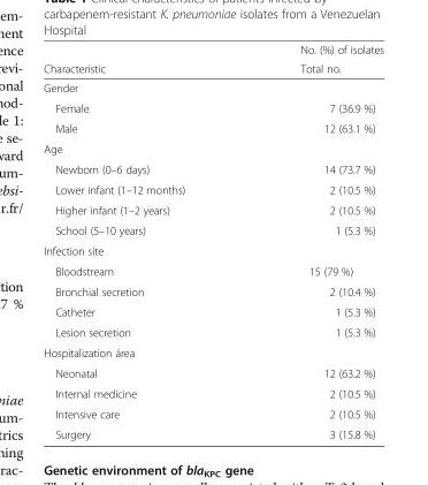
<table><thead><tr><td rowspan="2">Characteristic</td><td rowspan="2">No. (%) of isolates Total no.</td></tr><tr></tr></thead><tbody><tr><td colspan="2">Gender</td></tr><tr><td>Female</td><td>7 (36.9 %)</td></tr><tr><td>Male</td><td>12 (63.1 %)</td></tr><tr><td colspan="2">Age</td></tr><tr><td>Newborn (0–6 days)</td><td>14 (73.7 %)</td></tr><tr><td>Lower infant (1–12 months)</td><td>2 (10.5 %)</td></tr><tr><td>Higher infant (1–2 years)</td><td>2 (10.5 %)</td></tr><tr><td>School (5–10 years)</td><td>1 (5.3 %)</td></tr><tr><td colspan="2">Infection site</td></tr><tr><td>Bloodstream</td><td>15 (79 %)</td></tr><tr><td>Bronchial secretion</td><td>2 (10.4 %)</td></tr><tr><td>Catheter</td><td>1 (5.3 %)</td></tr><tr><td>Lesion secretion</td><td>1 (5.3 %)</td></tr><tr><td colspan="2">Hospitalization área</td></tr><tr><td>Neonatal</td><td>12 (63.2 %)</td></tr><tr><td>Internal medicine</td><td>2 (10.5 %)</td></tr><tr><td>Intensive care</td><td>2 (10.5 %)</td></tr><tr><td>Surgery</td><td>3 (15.8 %)</td></tr></tbody></table>